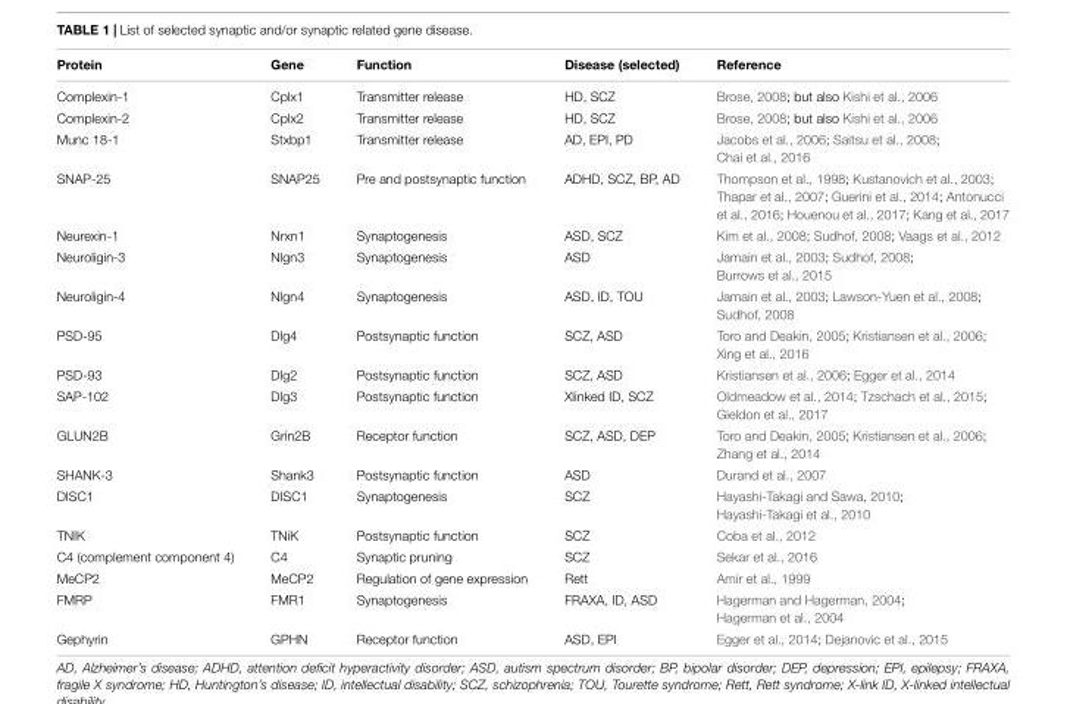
<table><thead><tr><td>Protein</td><td>Gene</td><td>Function</td><td>Disease (selected)</td><td>Reference</td></tr></thead><tbody><tr><td>Complexin-1</td><td>Cplx1</td><td>Transmitter release</td><td>HD, SCZ</td><td>Brose, 2008; but also Kishi et al., 2006</td></tr><tr><td>Complexin-2</td><td>Cplx2</td><td>Transmitter release</td><td>HD, SCZ</td><td>Brose, 2008; but also Kishi et al., 2006</td></tr><tr><td>Munc 18-1</td><td>Stxbp1</td><td>Transmitter release</td><td>AD, EPI, PD</td><td>Jacobs et al., 2006; Saitsu et al., 2008; Chai et al., 2016</td></tr><tr><td>SNAP-25</td><td>SNAP25</td><td>Pre and postsynaptic function</td><td>ADHD, SCZ, BP, AD</td><td>Thompson et al., 1998; Kustanovich et al., 2003; Thapar et al., 2007; Guerini et al., 2014; Antonucci et al., 2016; Houenou et al., 2017; Kang et al., 2017</td></tr><tr><td>Neurexin-1</td><td>Nrxn1</td><td>Synaptogenesis</td><td>ASD, SCZ</td><td>Kim et al., 2008; Sudhof, 2008; Vaags et al., 2012</td></tr><tr><td>Neuroligin-3</td><td>Nlgn3</td><td>Synaptogenesis</td><td>ASD</td><td>Jamain et al., 2003; Sudhof, 2008; Burrows et al., 2015</td></tr><tr><td>Neuroligin-4</td><td>Nlgn4</td><td>Synaptogenesis</td><td>ASD, ID, TOU</td><td>Jamain et al., 2003; Lawson-Yuen et al., 2008; Sudhof, 2008</td></tr><tr><td>PSD-95</td><td>Dlg4</td><td>Postsynaptic function</td><td>SCZ, ASD</td><td>Toro and Deakin, 2005; Kristiansen et al., 2006; Xing et al., 2016</td></tr><tr><td>PSD-93</td><td>Dlg2</td><td>Postsynaptic function</td><td>SCZ, ASD</td><td>Kristiansen et al., 2006; Egger et al., 2014</td></tr><tr><td>SAP-102</td><td>Dlg3</td><td>Postsynaptic function</td><td>Xlinked ID, SCZ</td><td>Oldmeadow et al., 2014; Tzschach et al., 2015; Gieldon et al., 2017</td></tr><tr><td>GLUN2B</td><td>Grin2B</td><td>Receptor function</td><td>SCZ, ASD, DEP</td><td>Toro and Deakin, 2005; Kristiansen et al., 2006; Zhang et al., 2014</td></tr><tr><td>SHANK-3</td><td>Shank3</td><td>Postsynaptic function</td><td>ASD</td><td>Durand et al., 2007</td></tr><tr><td>DISC1</td><td>DISC1</td><td>Synaptogenesis</td><td>SCZ</td><td>Hayashi-Takagi and Sawa, 2010; Hayashi-Takagi et al., 2010</td></tr><tr><td>TNIK</td><td>TNiK</td><td>Postsynaptic function</td><td>SCZ</td><td>Coba et al., 2012</td></tr><tr><td>C4 (complement component 4)</td><td>C4</td><td>Synaptic pruning</td><td>SCZ</td><td>Sekar et al., 2016</td></tr><tr><td>MeCP2</td><td>MeCP2</td><td>Regulation of gene expression</td><td>Rett</td><td>Amir et al., 1999</td></tr><tr><td>FMRP</td><td>FMR1</td><td>Synaptogenesis</td><td>FRAXA, ID, ASD</td><td>Hagerman and Hagerman, 2004; Hagerman et al., 2004</td></tr><tr><td>Gephyrin</td><td>GPHN</td><td>Receptor function</td><td>ASD, EPI</td><td>Egger et al., 2014; Dejanovic et al., 2015</td></tr></tbody></table>